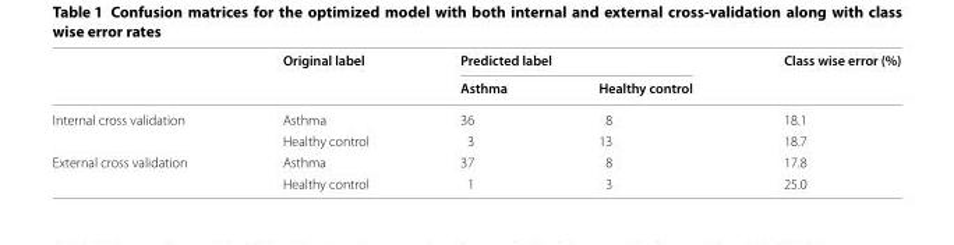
<table><thead><tr><td rowspan="2"></td><td rowspan="2">Original label</td><td colspan="2">Predicted label</td><td rowspan="2">Class wise error (%)</td></tr><tr><td>Asthma</td><td>Healthy control</td></tr></thead><tbody><tr><td rowspan="2">Internal cross validation</td><td>Asthma</td><td>36</td><td>8</td><td>18.1</td></tr><tr><td>Healthy control</td><td>3</td><td>13</td><td>18.7</td></tr><tr><td rowspan="2">External cross validation</td><td>Asthma</td><td>37</td><td>8</td><td>17.8</td></tr><tr><td>Healthy control</td><td>1</td><td>3</td><td>25.0</td></tr></tbody></table>